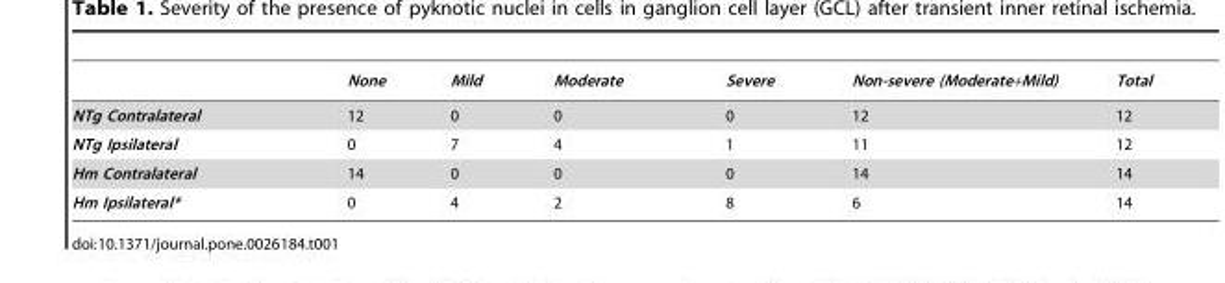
<table><thead><tr><td></td><td>None</td><td>Mild</td><td>Moderate</td><td>Severe</td><td>Non-severe (Moderate+Mild)</td><td>Total</td></tr></thead><tbody><tr><td>NTg Contralateral</td><td>12</td><td>0</td><td>0</td><td>0</td><td>12</td><td>12</td></tr><tr><td>NTg Ipsilateral</td><td>0</td><td>7</td><td>4</td><td>1</td><td>11</td><td>12</td></tr><tr><td>Hm Contralateral</td><td>14</td><td>0</td><td>0</td><td>0</td><td>14</td><td>14</td></tr><tr><td>Hm Ipsilateral*</td><td>0</td><td>4</td><td>2</td><td>8</td><td>6</td><td>14</td></tr></tbody></table>